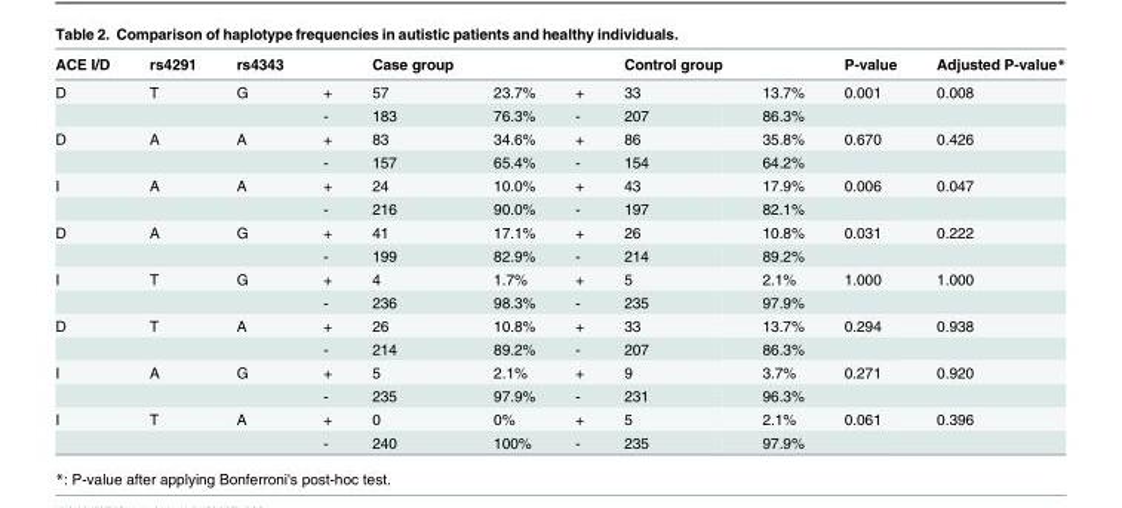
<table><thead><tr><td>ACE I/D</td><td>rs4291</td><td>rs4343</td><td></td><td>Case group</td><td></td><td></td><td>Control group</td><td></td><td>P-value</td><td>Adjusted P-value*</td></tr></thead><tbody><tr><td rowspan="2">D</td><td>T</td><td>G</td><td>+</td><td>57</td><td>23.7%</td><td>+</td><td>33</td><td>13.7%</td><td>0.001</td><td>0.008</td></tr><tr><td></td><td></td><td>-</td><td>183</td><td>76.3%</td><td>-</td><td>207</td><td>86.3%</td><td></td><td></td></tr><tr><td rowspan="2">D</td><td>A</td><td>A</td><td>+</td><td>83</td><td>34.6%</td><td>+</td><td>86</td><td>35.8%</td><td>0.670</td><td>0.426</td></tr><tr><td></td><td></td><td>-</td><td>157</td><td>65.4%</td><td>-</td><td>154</td><td>64.2%</td><td></td><td></td></tr><tr><td rowspan="2">I</td><td>A</td><td>A</td><td>+</td><td>24</td><td>10.0%</td><td>+</td><td>43</td><td>17.9%</td><td>0.006</td><td>0.047</td></tr><tr><td></td><td></td><td>-</td><td>216</td><td>90.0%</td><td>-</td><td>197</td><td>82.1%</td><td></td><td></td></tr><tr><td rowspan="2">D</td><td>A</td><td>G</td><td>+</td><td>41</td><td>17.1%</td><td>+</td><td>26</td><td>10.8%</td><td>0.031</td><td>0.222</td></tr><tr><td></td><td></td><td>-</td><td>199</td><td>82.9%</td><td>-</td><td>214</td><td>89.2%</td><td></td><td></td></tr><tr><td rowspan="2">I</td><td>T</td><td>G</td><td>+</td><td>4</td><td>1.7%</td><td>+</td><td>5</td><td>2.1%</td><td>1.000</td><td>1.000</td></tr><tr><td></td><td></td><td>-</td><td>236</td><td>98.3%</td><td>-</td><td>235</td><td>97.9%</td><td></td><td></td></tr><tr><td rowspan="2">D</td><td>T</td><td>A</td><td>+</td><td>26</td><td>10.8%</td><td>+</td><td>33</td><td>13.7%</td><td>0.294</td><td>0.938</td></tr><tr><td></td><td></td><td>-</td><td>214</td><td>89.2%</td><td>-</td><td>207</td><td>86.3%</td><td></td><td></td></tr><tr><td rowspan="2">I</td><td>A</td><td>G</td><td>+</td><td>5</td><td>2.1%</td><td>+</td><td>9</td><td>3.7%</td><td>0.271</td><td>0.920</td></tr><tr><td></td><td></td><td>-</td><td>235</td><td>97.9%</td><td>-</td><td>231</td><td>96.3%</td><td></td><td></td></tr><tr><td rowspan="2">I</td><td>T</td><td>A</td><td>+</td><td>0</td><td>0%</td><td>+</td><td>5</td><td>2.1%</td><td>0.061</td><td>0.396</td></tr><tr><td></td><td></td><td>-</td><td>240</td><td>100%</td><td>-</td><td>235</td><td>97.9%</td><td></td><td></td></tr></tbody></table>